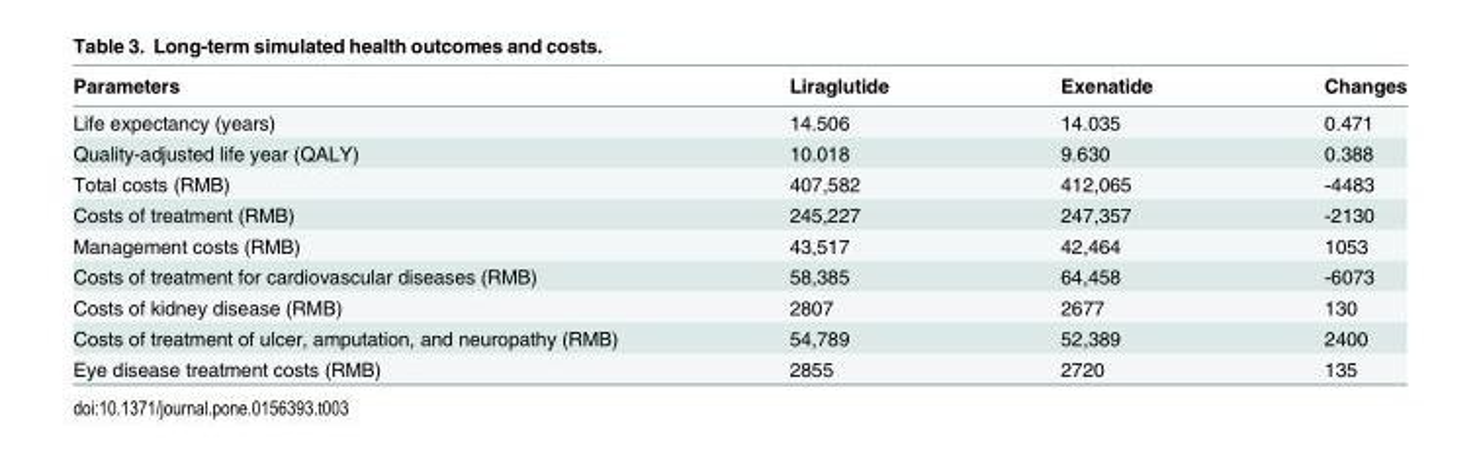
<table><thead><tr><td>Parameters</td><td>Liraglutide</td><td>Exenatide</td><td>Changes</td></tr></thead><tbody><tr><td>Life expectancy (years)</td><td>14.506</td><td>14.035</td><td>0.471</td></tr><tr><td>Quality-adjusted life year (QALY)</td><td>10.018</td><td>9.630</td><td>0.388</td></tr><tr><td>Total costs (RMB)</td><td>407,582</td><td>412,065</td><td>-4483</td></tr><tr><td>Costs of treatment (RMB)</td><td>245,227</td><td>247,357</td><td>-2130</td></tr><tr><td>Management costs (RMB)</td><td>43,517</td><td>42,464</td><td>1053</td></tr><tr><td>Costs of treatment for cardiovascular diseases (RMB)</td><td>58,385</td><td>64,458</td><td>-6073</td></tr><tr><td>Costs of kidney disease (RMB)</td><td>2807</td><td>2677</td><td>130</td></tr><tr><td>Costs of treatment of ulcer, amputation, and neuropathy (RMB)</td><td>54,789</td><td>52,389</td><td>2400</td></tr><tr><td>Eye disease treatment costs (RMB)</td><td>2855</td><td>2720</td><td>135</td></tr></tbody></table>